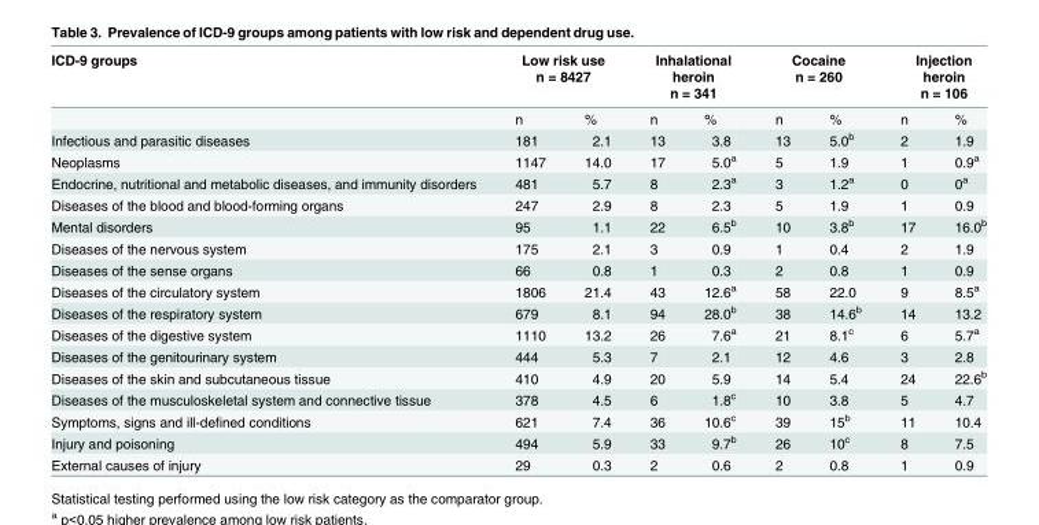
<table><thead><tr><td rowspan="2">ICD-9 groups</td><td colspan="2">Low risk use n = 8427</td><td colspan="2">Inhalational heroin n = 341</td><td colspan="2">Cocaine n = 260</td><td colspan="2">Injection heroin n = 106</td></tr><tr><td>n</td><td>%</td><td>n</td><td>%</td><td>n</td><td>%</td><td>n</td><td>%</td></tr></thead><tbody><tr><td>Infectious and parasitic diseases</td><td>181</td><td>2.1</td><td>13</td><td>3.8</td><td>13</td><td>5.0<sup>b</sup></td><td>2</td><td>1.9</td></tr><tr><td>Neoplasms</td><td>1147</td><td>14.0</td><td>17</td><td>5.0<sup>a</sup></td><td>5</td><td>1.9</td><td>1</td><td>0.9<sup>a</sup></td></tr><tr><td>Endocrine, nutritional and metabolic diseases, and immunity disorders</td><td>481</td><td>5.7</td><td>8</td><td>2.3<sup>a</sup></td><td>3</td><td>1.2<sup>a</sup></td><td>0</td><td>0<sup>a</sup></td></tr><tr><td>Diseases of the blood and blood-forming organs</td><td>247</td><td>2.9</td><td>8</td><td>2.3</td><td>5</td><td>1.9</td><td>1</td><td>0.9</td></tr><tr><td>Mental disorders</td><td>95</td><td>1.1</td><td>22</td><td>6.5<sup>b</sup></td><td>10</td><td>3.8<sup>b</sup></td><td>17</td><td>16.0<sup>b</sup></td></tr><tr><td>Diseases of the nervous system</td><td>175</td><td>2.1</td><td>3</td><td>0.9</td><td>1</td><td>0.4</td><td>2</td><td>1.9</td></tr><tr><td>Diseases of the sense organs</td><td>66</td><td>0.8</td><td>1</td><td>0.3</td><td>2</td><td>0.8</td><td>1</td><td>0.9</td></tr><tr><td>Diseases of the circulatory system</td><td>1806</td><td>21.4</td><td>43</td><td>12.6<sup>a</sup></td><td>58</td><td>22.0</td><td>9</td><td>8.5<sup>a</sup></td></tr><tr><td>Diseases of the respiratory system</td><td>679</td><td>8.1</td><td>94</td><td>28.0<sup>b</sup></td><td>38</td><td>14.6<sup>b</sup></td><td>14</td><td>13.2</td></tr><tr><td>Diseases of the digestive system</td><td>1110</td><td>13.2</td><td>26</td><td>7.6<sup>a</sup></td><td>21</td><td>8.1<sup>c</sup></td><td>6</td><td>5.7<sup>a</sup></td></tr><tr><td>Diseases of the genitourinary system</td><td>444</td><td>5.3</td><td>7</td><td>2.1</td><td>12</td><td>4.6</td><td>3</td><td>2.8</td></tr><tr><td>Diseases of the skin and subcutaneous tissue</td><td>410</td><td>4.9</td><td>20</td><td>5.9</td><td>14</td><td>5.4</td><td>24</td><td>22.6<sup>b</sup></td></tr><tr><td>Diseases of the musculoskeletal system and connective tissue</td><td>378</td><td>4.5</td><td>6</td><td>1.8<sup>c</sup></td><td>10</td><td>3.8</td><td>5</td><td>4.7</td></tr><tr><td>Symptoms, signs and ill-defined conditions</td><td>621</td><td>7.4</td><td>36</td><td>10.6<sup>c</sup></td><td>39</td><td>15<sup>b</sup></td><td>11</td><td>10.4</td></tr><tr><td>Injury and poisoning</td><td>494</td><td>5.9</td><td>33</td><td>9.7<sup>b</sup></td><td>26</td><td>10<sup>c</sup></td><td>8</td><td>7.5</td></tr><tr><td>External causes of injury</td><td>29</td><td>0.3</td><td>2</td><td>0.6</td><td>2</td><td>0.8</td><td>1</td><td>0.9</td></tr></tbody></table>